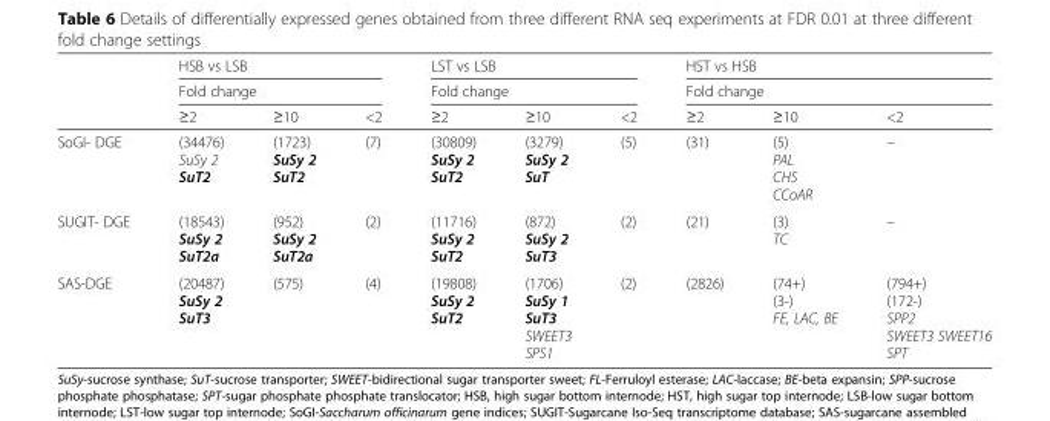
<table><thead><tr><td rowspan="3"></td><td rowspan="2" colspan="3">HSB vs LSB Fold change</td><td rowspan="2" colspan="3">LST vs LSB Fold change</td><td rowspan="2" colspan="3">HST vs HSB Fold change</td></tr><tr></tr><tr><td>≥2</td><td>≥10</td><td>&lt;2</td><td>≥2</td><td>≥10</td><td>&lt;2</td><td>≥2</td><td>≥10</td><td>&lt;2</td></tr></thead><tbody><tr><td>SoGI- DGE</td><td>(34476) SuSy 2 SuT2</td><td>(1723) SuSy 2 SuT2</td><td>(7)</td><td>(30809) SuSy 2 SuT2</td><td>(3279) SuSy 2 SuT</td><td>(5)</td><td>(31)</td><td>(5) PAL CHS CCoAR</td><td>–</td></tr><tr><td>SUGIT- DGE</td><td>(18543) SuSy 2 SuT2a</td><td>(952) SuSy 2 SuT2a</td><td>(2)</td><td>(11716) SuSy 2 SuT2</td><td>(872) SuSy 2 SuT3</td><td>(2)</td><td>(21)</td><td>(3) TC</td><td>–</td></tr><tr><td>SAS-DGE</td><td>(20487) SuSy 2 SuT3</td><td>(575)</td><td>(4)</td><td>(19808) SuSy 2 SuT2</td><td>(1706) SuSy 1 SuT3 SWEET3 SPS1</td><td>(2)</td><td>(2826)</td><td>(74+) (3-) FE, LAC, BE</td><td>(794+) (172-) SPP2 SWEET3 SWEET16 SPT</td></tr></tbody></table>